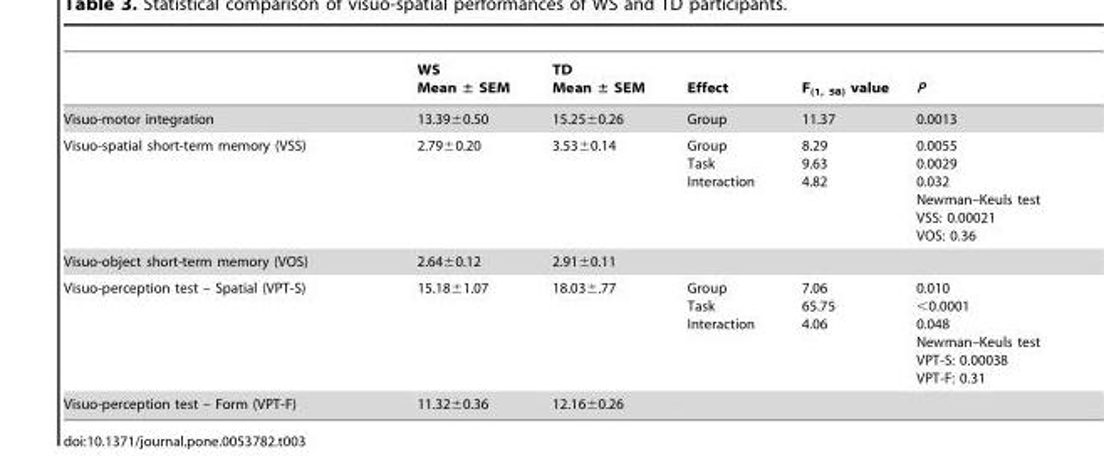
<table><thead><tr><td></td><td>WS Mean ± SEM</td><td>TD Mean ± SEM</td><td>Effect</td><td>F<sub>(1, 58)</sub> value</td><td>P</td></tr></thead><tbody><tr><td>Visuo-motor integration</td><td>13.39±0.50</td><td>15.25±0.26</td><td>Group</td><td>11.37</td><td>0.0013</td></tr><tr><td>Visuo-spatial short-term memory (VSS)</td><td>2.79±0.20</td><td>3.53±0.14</td><td>Group Task Interaction</td><td>8.29 9.63 4.82</td><td>0.0055 0.0029 0.032 Newman–Keuls test VSS: 0.00021 VOS: 0.36</td></tr><tr><td>Visuo-object short-term memory (VOS)</td><td>2.64±0.12</td><td>2.91±0.11</td><td></td><td></td><td></td></tr><tr><td>Visuo-perception test – Spatial (VPT-S)</td><td>15.18±1.07</td><td>18.03±.77</td><td>Group Task Interaction</td><td>7.06 65.75 4.06</td><td>0.010 &lt;0.0001 0.048 Newman–Keuls test VPT-S: 0.00038 VPT-F: 0.31</td></tr><tr><td>Visuo-perception test – Form (VPT-F)</td><td>11.32±0.36</td><td>12.16±0.26</td><td></td><td></td><td></td></tr></tbody></table>